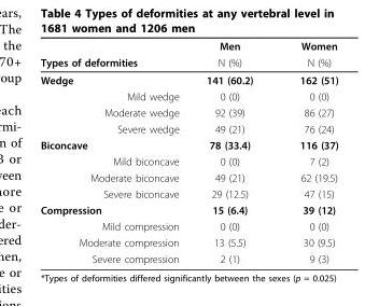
<table><thead><tr><td rowspan="2">Types of deformities</td><td rowspan="2">Men N (%)</td><td rowspan="2">Women N (%)</td></tr><tr></tr></thead><tbody><tr><td>Wedge</td><td>141 (60.2)</td><td>162 (51)</td></tr><tr><td>Mild wedge</td><td>0 (0)</td><td>0 (0)</td></tr><tr><td>Moderate wedge</td><td>92 (39)</td><td>86 (27)</td></tr><tr><td>Severe wedge</td><td>49 (21)</td><td>76 (24)</td></tr><tr><td>Biconcave</td><td>78 (33.4)</td><td>116 (37)</td></tr><tr><td>Mild biconcave</td><td>0 (0)</td><td>7 (2)</td></tr><tr><td>Moderate biconcave</td><td>49 (21)</td><td>62 (19.5)</td></tr><tr><td>Severe biconcave</td><td>29 (12.5)</td><td>47 (15)</td></tr><tr><td>Compression</td><td>15 (6.4)</td><td>39 (12)</td></tr><tr><td>Mild compression</td><td>0 (0)</td><td>0 (0)</td></tr><tr><td>Moderate compression</td><td>13 (5.5)</td><td>30 (9.5)</td></tr><tr><td>Severe compression</td><td>2 (1)</td><td>9 (3)</td></tr></tbody></table>